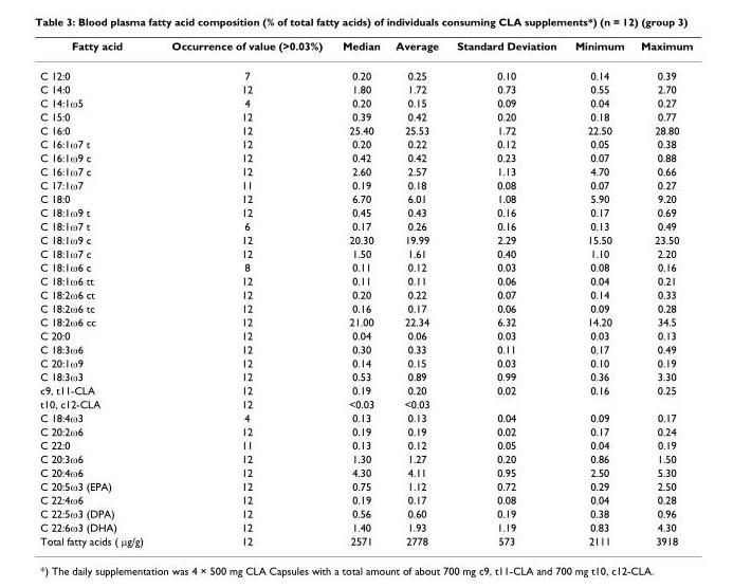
<table><thead><tr><td>Fatty acid</td><td>Occurrence of value (&gt;0.03%)</td><td>Median</td><td>Average</td><td>Standard Deviation</td><td>Minimum</td><td>Maximum</td></tr></thead><tbody><tr><td>C 12:0</td><td>7</td><td>0.20</td><td>0.25</td><td>0.10</td><td>0.14</td><td>0.39</td></tr><tr><td>C 14:0</td><td>12</td><td>1.80</td><td>1.72</td><td>0.73</td><td>0.55</td><td>2.70</td></tr><tr><td>C 14:1ω5</td><td>4</td><td>0.20</td><td>0.15</td><td>0.09</td><td>0.04</td><td>0.27</td></tr><tr><td>C 15:0</td><td>12</td><td>0.39</td><td>0.42</td><td>0.20</td><td>0.18</td><td>0.77</td></tr><tr><td>C 16:0</td><td>12</td><td>25.40</td><td>25.53</td><td>1.72</td><td>22.50</td><td>28.80</td></tr><tr><td>C 16:1ω7 t</td><td>12</td><td>0.20</td><td>0.22</td><td>0.12</td><td>0.05</td><td>0.38</td></tr><tr><td>C 16:1ω9 c</td><td>12</td><td>0.42</td><td>0.42</td><td>0.23</td><td>0.07</td><td>0.88</td></tr><tr><td>C 16:1ω7 c</td><td>12</td><td>2.60</td><td>2.57</td><td>1.13</td><td>4.70</td><td>0.66</td></tr><tr><td>C 17:1ω7</td><td>11</td><td>0.19</td><td>0.18</td><td>0.08</td><td>0.07</td><td>0.27</td></tr><tr><td>C 18:0</td><td>12</td><td>6.70</td><td>6.01</td><td>1.08</td><td>5.90</td><td>9.20</td></tr><tr><td>C 18:1ω9 t</td><td>12</td><td>0.45</td><td>0.43</td><td>0.16</td><td>0.17</td><td>0.69</td></tr><tr><td>C 18:1ω7 t</td><td>6</td><td>0.17</td><td>0.26</td><td>0.16</td><td>0.13</td><td>0.49</td></tr><tr><td>C 18:1ω9 c</td><td>12</td><td>20.30</td><td>19.99</td><td>2.29</td><td>15.50</td><td>23.50</td></tr><tr><td>C 18:1ω7 c</td><td>12</td><td>1.50</td><td>1.61</td><td>0.40</td><td>1.10</td><td>2.20</td></tr><tr><td>C 18:1ω6 c</td><td>8</td><td>0.11</td><td>0.12</td><td>0.03</td><td>0.08</td><td>0.16</td></tr><tr><td>C 18:1ω6 tt</td><td>12</td><td>0.11</td><td>0.11</td><td>0.06</td><td>0.04</td><td>0.21</td></tr><tr><td>C 18:2ω6 ct</td><td>12</td><td>0.20</td><td>0.22</td><td>0.07</td><td>0.14</td><td>0.33</td></tr><tr><td>C 18:2ω6 tc</td><td>12</td><td>0.16</td><td>0.17</td><td>0.06</td><td>0.09</td><td>0.28</td></tr><tr><td>C 18:2ω6 cc</td><td>12</td><td>21.00</td><td>22.34</td><td>6.32</td><td>14.20</td><td>34.5</td></tr><tr><td>C 20:0</td><td>12</td><td>0.04</td><td>0.06</td><td>0.03</td><td>0.03</td><td>0.13</td></tr><tr><td>C 18:3ω6</td><td>12</td><td>0.30</td><td>0.33</td><td>0.11</td><td>0.17</td><td>0.49</td></tr><tr><td>C 20:1ω9</td><td>12</td><td>0.14</td><td>0.15</td><td>0.03</td><td>0.10</td><td>0.19</td></tr><tr><td>C 18:3ω3</td><td>12</td><td>0.53</td><td>0.89</td><td>0.99</td><td>0.36</td><td>3.30</td></tr><tr><td>c9, t11-CLA</td><td>12</td><td>0.19</td><td>0.20</td><td>0.02</td><td>0.16</td><td>0.25</td></tr><tr><td>t10, c12-CLA</td><td>12</td><td>&lt;0.03</td><td>&lt;0.03</td><td></td><td></td><td></td></tr><tr><td>C 18:4ω3</td><td>4</td><td>0.13</td><td>0.13</td><td>0.04</td><td>0.09</td><td>0.17</td></tr><tr><td>C 20:2ω6</td><td>12</td><td>0.19</td><td>0.19</td><td>0.02</td><td>0.17</td><td>0.24</td></tr><tr><td>C 22:0</td><td>11</td><td>0.13</td><td>0.12</td><td>0.05</td><td>0.04</td><td>0.19</td></tr><tr><td>C 20:3ω6</td><td>12</td><td>1.30</td><td>1.27</td><td>0.20</td><td>0.86</td><td>1.50</td></tr><tr><td>C 20:4ω6</td><td>12</td><td>4.30</td><td>4.11</td><td>0.95</td><td>2.50</td><td>5.30</td></tr><tr><td>C 20:5ω3 (EPA)</td><td>12</td><td>0.75</td><td>1.12</td><td>0.72</td><td>0.29</td><td>2.50</td></tr><tr><td>C 22:4ω6</td><td>12</td><td>0.19</td><td>0.17</td><td>0.08</td><td>0.04</td><td>0.28</td></tr><tr><td>C 22:5ω3 (DPA)</td><td>12</td><td>0.56</td><td>0.60</td><td>0.19</td><td>0.38</td><td>0.96</td></tr><tr><td>C 22:6ω3 (DHA)</td><td>12</td><td>1.40</td><td>1.93</td><td>1.19</td><td>0.83</td><td>4.30</td></tr><tr><td>Total fatty acids ( μg/g)</td><td>12</td><td>2571</td><td>2778</td><td>573</td><td>2111</td><td>3918</td></tr></tbody></table>